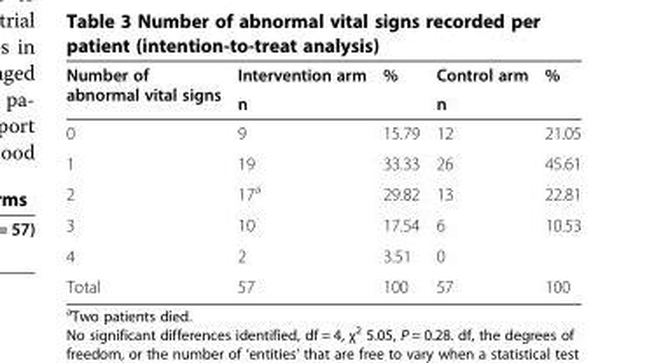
<table><thead><tr><td rowspan="2">Number of abnormal vital signs</td><td rowspan="2">Intervention arm n</td><td rowspan="2">%</td><td rowspan="2">Control arm n</td><td rowspan="2">%</td></tr><tr></tr></thead><tbody><tr><td>0</td><td>9</td><td>15.79</td><td>12</td><td>21.05</td></tr><tr><td>1</td><td>19</td><td>33.33</td><td>26</td><td>45.61</td></tr><tr><td>2</td><td>17<sup>a</sup></td><td>29.82</td><td>13</td><td>22.81</td></tr><tr><td>3</td><td>10</td><td>17.54</td><td>6</td><td>10.53</td></tr><tr><td>4</td><td>2</td><td>3.51</td><td>0</td><td></td></tr><tr><td>Total</td><td>57</td><td>100</td><td>57</td><td>100</td></tr></tbody></table>